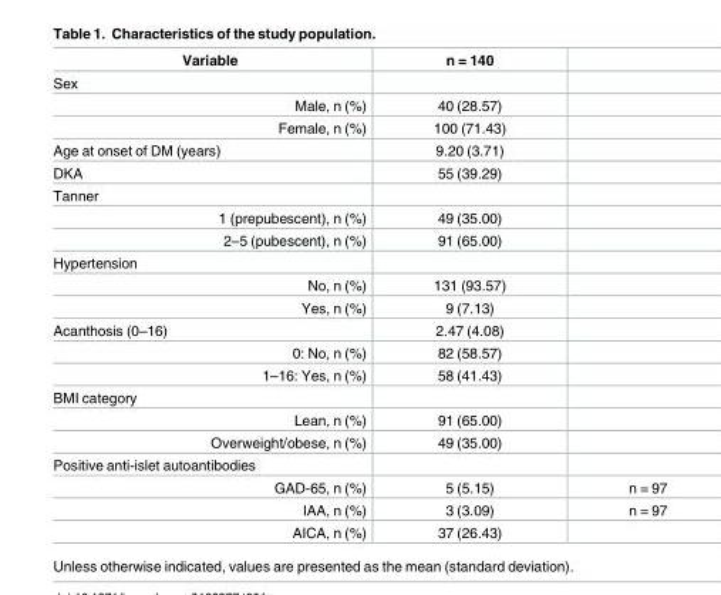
<table><thead><tr><td>Variable</td><td>n = 140</td><td></td></tr></thead><tbody><tr><td colspan="3">Sex</td></tr><tr><td>Male, n (%)</td><td>40 (28.57)</td><td></td></tr><tr><td>Female, n (%)</td><td>100 (71.43)</td><td></td></tr><tr><td>Age at onset of DM (years)</td><td>9.20 (3.71)</td><td></td></tr><tr><td>DKA</td><td>55 (39.29)</td><td></td></tr><tr><td colspan="3">Tanner</td></tr><tr><td>1 (prepubescent), n (%)</td><td>49 (35.00)</td><td></td></tr><tr><td>2–5 (pubescent), n (%)</td><td>91 (65.00)</td><td></td></tr><tr><td colspan="3">Hypertension</td></tr><tr><td>No, n (%)</td><td>131 (93.57)</td><td></td></tr><tr><td>Yes, n (%)</td><td>9 (7.13)</td><td></td></tr><tr><td>Acanthosis (0–16)</td><td>2.47 (4.08)</td><td></td></tr><tr><td>0: No, n (%)</td><td>82 (58.57)</td><td></td></tr><tr><td>1–16: Yes, n (%)</td><td>58 (41.43)</td><td></td></tr><tr><td colspan="3">BMI category</td></tr><tr><td>Lean, n (%)</td><td>91 (65.00)</td><td></td></tr><tr><td>Overweight/obese, n (%)</td><td>49 (35.00)</td><td></td></tr><tr><td colspan="3">Positive anti-islet autoantibodies</td></tr><tr><td>GAD-65, n (%)</td><td>5 (5.15)</td><td>n = 97</td></tr><tr><td>IAA, n (%)</td><td>3 (3.09)</td><td>n = 97</td></tr><tr><td>AICA, n (%)</td><td>37 (26.43)</td><td></td></tr></tbody></table>